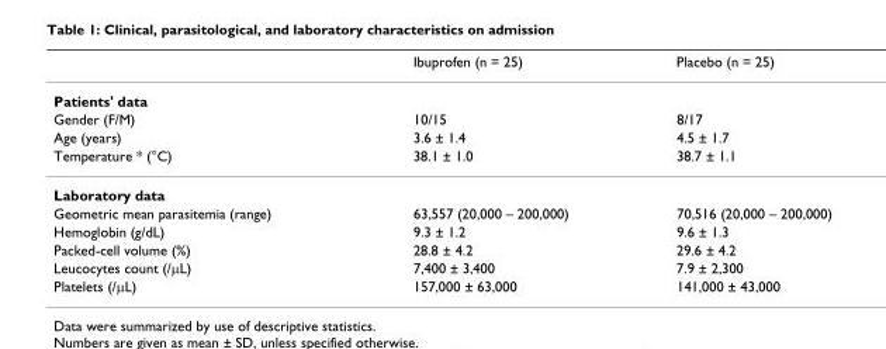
<table><thead><tr><td></td><td>Ibuprofen (n = 25)</td><td>Placebo (n = 25)</td></tr></thead><tbody><tr><td colspan="3">Patients&#x27; data</td></tr><tr><td>Gender (F/M)</td><td>10/15</td><td>8/17</td></tr><tr><td>Age (years)</td><td>3.6 ± 1.4</td><td>4.5 ± 1.7</td></tr><tr><td>Temperature * (°C)</td><td>38.1 ± 1.0</td><td>38.7 ± 1.1</td></tr><tr><td colspan="3">Laboratory data</td></tr><tr><td>Geometric mean parasitemia (range)</td><td>63,557 (20,000 – 200,000)</td><td>70,516 (20,000 – 200,000)</td></tr><tr><td>Hemoglobin (g/dL)</td><td>9.3 ± 1.2</td><td>9.6 ± 1.3</td></tr><tr><td>Packed-cell volume (%)</td><td>28.8 ± 4.2</td><td>29.6 ± 4.2</td></tr><tr><td>Leucocytes count (/µL)</td><td>7,400 ± 3,400</td><td>7.9 ± 2,300</td></tr><tr><td>Platelets (/µL)</td><td>157,000 ± 63,000</td><td>141,000 ± 43,000</td></tr></tbody></table>